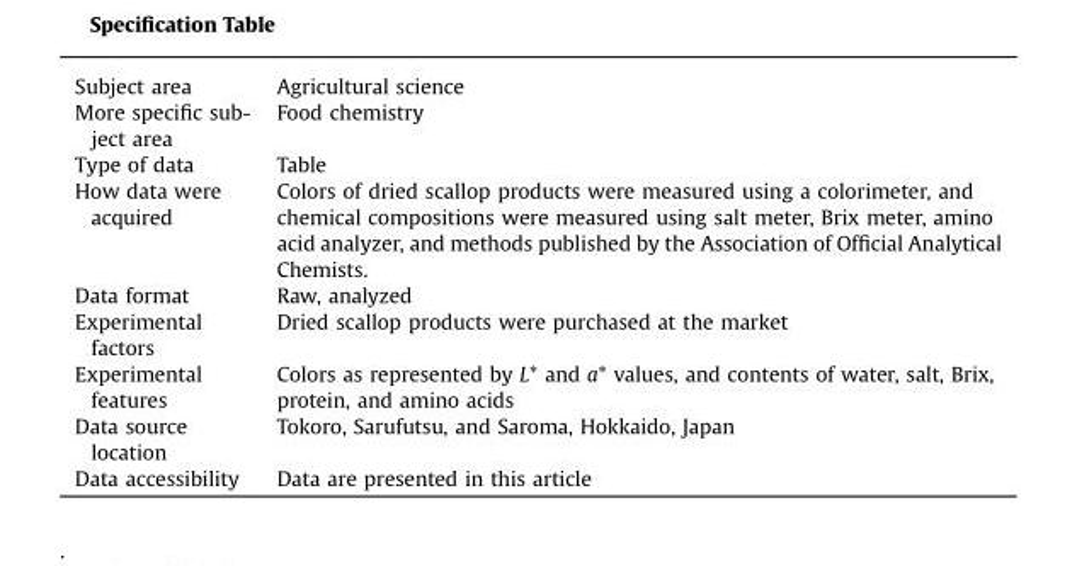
<table><tbody><tr><td>Subject area</td><td>Agricultural science</td></tr><tr><td>More specific sub- ject area</td><td>Food chemistry</td></tr><tr><td>Type of data</td><td>Table</td></tr><tr><td>How data were acquired</td><td>Colors of dried scallop products were measured using a colorimeter, and chemical compositions were measured using salt meter, Brix meter, amino acid analyzer, and methods published by the Association of Official Analytical Chemists.</td></tr><tr><td>Data format</td><td>Raw, analyzed</td></tr><tr><td>Experimental factors</td><td>Dried scallop products were purchased at the market</td></tr><tr><td>Experimental features</td><td>Colors as represented by L* and a* values, and contents of water, salt, Brix, protein, and amino acids</td></tr><tr><td>Data source location</td><td>Tokoro, Sarufutsu, and Saroma, Hokkaido, Japan</td></tr><tr><td>Data accessibility</td><td>Data are presented in this article</td></tr></tbody></table>